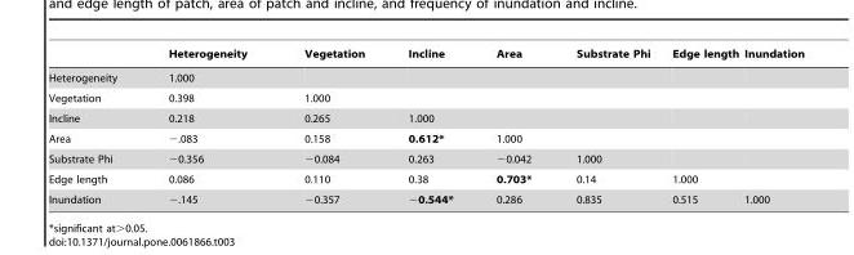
<table><thead><tr><td></td><td>Heterogeneity</td><td>Vegetation</td><td>Incline</td><td>Area</td><td>Substrate Phi</td><td>Edge length</td><td>Inundation</td></tr></thead><tbody><tr><td>Heterogeneity</td><td>1.000</td><td></td><td></td><td></td><td></td><td></td><td></td></tr><tr><td>Vegetation</td><td>0.398</td><td>1.000</td><td></td><td></td><td></td><td></td><td></td></tr><tr><td>Incline</td><td>0.218</td><td>0.265</td><td>1.000</td><td></td><td></td><td></td><td></td></tr><tr><td>Area</td><td>−.083</td><td>0.158</td><td>0.612*</td><td>1.000</td><td></td><td></td><td></td></tr><tr><td>Substrate Phi</td><td>−0.356</td><td>−0.084</td><td>0.263</td><td>−0.042</td><td>1.000</td><td></td><td></td></tr><tr><td>Edge length</td><td>0.086</td><td>0.110</td><td>0.38</td><td>0.703*</td><td>0.14</td><td>1.000</td><td></td></tr><tr><td>Inundation</td><td>−.145</td><td>−0.357</td><td>−0.544*</td><td>0.286</td><td>0.835</td><td>0.515</td><td>1.000</td></tr></tbody></table>